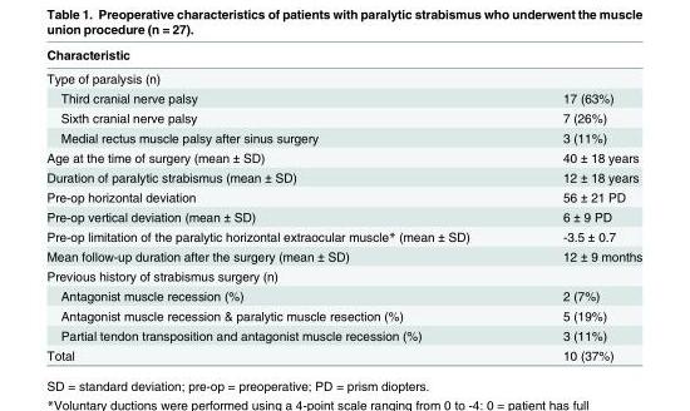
<table><thead><tr><td>Characteristic</td><td></td></tr></thead><tbody><tr><td colspan="2">Type of paralysis (n)</td></tr><tr><td>Third cranial nerve palsy</td><td>17 (63%)</td></tr><tr><td>Sixth cranial nerve palsy</td><td>7 (26%)</td></tr><tr><td>Medial rectus muscle palsy after sinus surgery</td><td>3 (11%)</td></tr><tr><td>Age at the time of surgery (mean ± SD)</td><td>40 ± 18 years</td></tr><tr><td>Duration of paralytic strabismus (mean ± SD)</td><td>12 ± 18 years</td></tr><tr><td>Pre-op horizontal deviation</td><td>56 ± 21 PD</td></tr><tr><td>Pre-op vertical deviation (mean ± SD)</td><td>6 ± 9 PD</td></tr><tr><td>Pre-op limitation of the paralytic horizontal extraocular muscle* (mean ± SD)</td><td>-3.5 ± 0.7</td></tr><tr><td>Mean follow-up duration after the surgery (mean ± SD)</td><td>12 ± 9 months</td></tr><tr><td colspan="2">Previous history of strabismus surgery (n)</td></tr><tr><td>Antagonist muscle recession (%)</td><td>2 (7%)</td></tr><tr><td>Antagonist muscle recession &amp; paralytic muscle resection (%)</td><td>5 (19%)</td></tr><tr><td>Partial tendon transposition and antagonist muscle recession (%)</td><td>3 (11%)</td></tr><tr><td>Total</td><td>10 (37%)</td></tr></tbody></table>